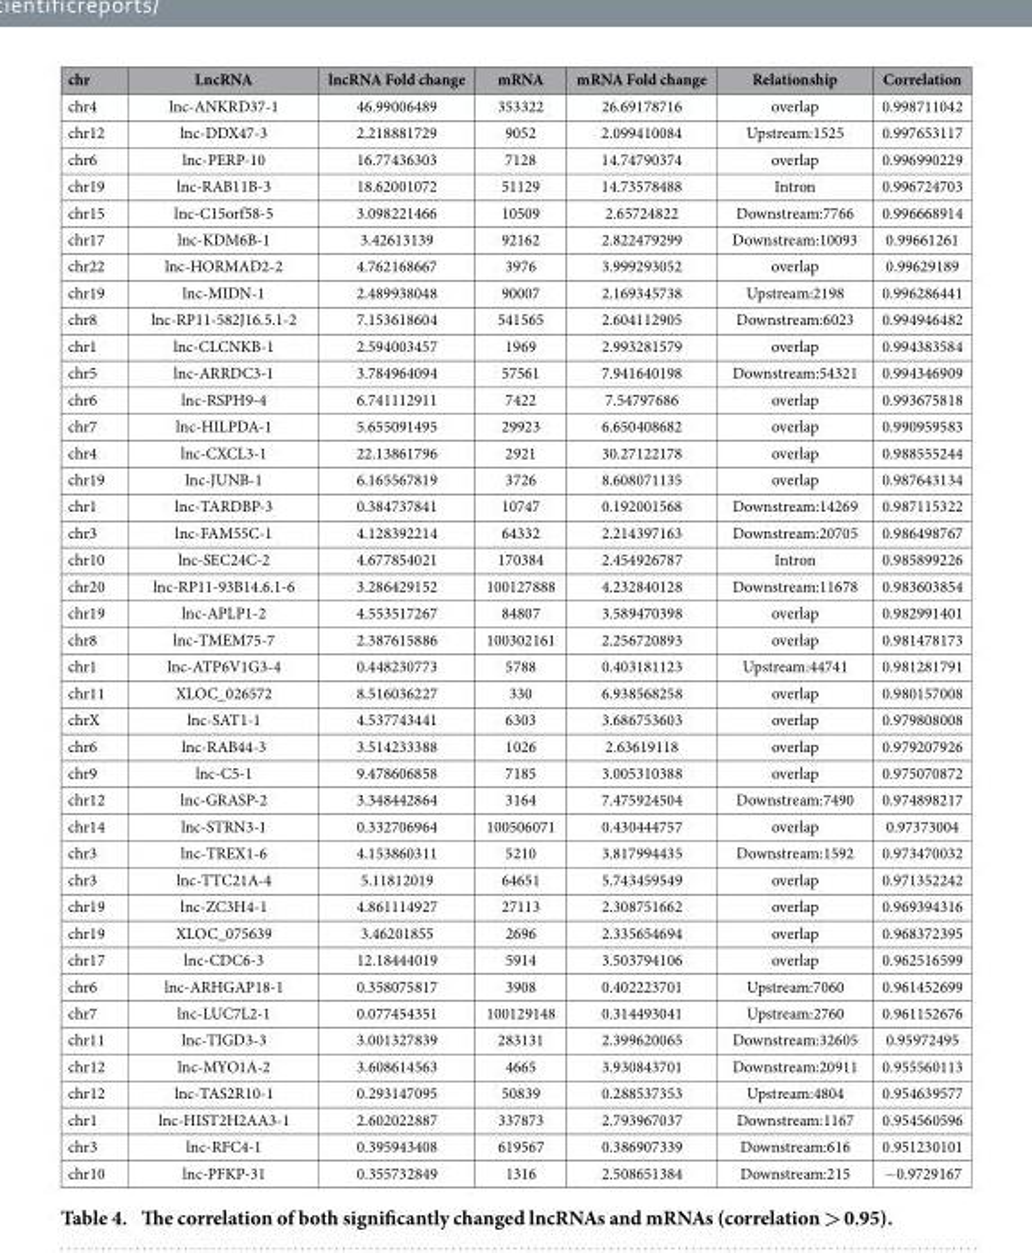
<table><thead><tr><td>chr</td><td>LncRNA</td><td>lncRNA Fold change</td><td>mRNA</td><td>mRNA Fold change</td><td>Relationship</td><td>Correlation</td></tr></thead><tbody><tr><td>chr4</td><td>lnc-ANKRD37-1</td><td>46.99006489</td><td>353322</td><td>26.69178716</td><td>overlap</td><td>0.998711042</td></tr><tr><td>chr12</td><td>lnc-DDX47-3</td><td>2.218881729</td><td>9052</td><td>2.099410084</td><td>Upstream:1525</td><td>0.997653117</td></tr><tr><td>chr6</td><td>lnc-PERP-10</td><td>16.77436303</td><td>7128</td><td>14.74790374</td><td>overlap</td><td>0.996990229</td></tr><tr><td>chr19</td><td>lnc-RAB11B-3</td><td>18.62001072</td><td>51129</td><td>14.73578488</td><td>Intron</td><td>0.996724703</td></tr><tr><td>chr15</td><td>lnc-C15orf58-5</td><td>3.098221466</td><td>10509</td><td>2.65724822</td><td>Downstream:7766</td><td>0.996668914</td></tr><tr><td>chr17</td><td>lnc-KDM6B-1</td><td>3.42613139</td><td>92162</td><td>2.822479299</td><td>Downstream:10093</td><td>0.99661261</td></tr><tr><td>chr22</td><td>lnc-HORMAD2-2</td><td>4.762168667</td><td>3976</td><td>3.999293052</td><td>overlap</td><td>0.99629189</td></tr><tr><td>chr19</td><td>lnc-MIDN-1</td><td>2.489938048</td><td>90007</td><td>2.169345738</td><td>Upstream:2198</td><td>0.996286441</td></tr><tr><td>chr8</td><td>lnc-RP11-582J16.5.1-2</td><td>7.153618604</td><td>541565</td><td>2.604112905</td><td>Downstream:6023</td><td>0.994946482</td></tr><tr><td>chr1</td><td>lnc-CLCNKB-1</td><td>2.594003457</td><td>1969</td><td>2.993281579</td><td>overlap</td><td>0.994383584</td></tr><tr><td>chr5</td><td>lnc-ARRDC3-1</td><td>3.784964094</td><td>57561</td><td>7.941640198</td><td>Downstream:54321</td><td>0.994346909</td></tr><tr><td>chr6</td><td>lnc-RSPH9-4</td><td>6.741112911</td><td>7422</td><td>7.54797686</td><td>overlap</td><td>0.993675818</td></tr><tr><td>chr7</td><td>lnc-HILPDA-1</td><td>5.655091495</td><td>29923</td><td>6.650408682</td><td>overlap</td><td>0.990959583</td></tr><tr><td>chr4</td><td>lnc-CXCL3-1</td><td>22.13861796</td><td>2921</td><td>30.27122178</td><td>overlap</td><td>0.988555244</td></tr><tr><td>chr19</td><td>lnc-JUNB-1</td><td>6.165567819</td><td>3726</td><td>8.608071135</td><td>overlap</td><td>0.987643134</td></tr><tr><td>chr1</td><td>lnc-TARDBP-3</td><td>0.384737841</td><td>10747</td><td>0.192001568</td><td>Downstream:14269</td><td>0.987115322</td></tr><tr><td>chr3</td><td>lnc-FAM55C-1</td><td>4.128392214</td><td>64332</td><td>2.214397163</td><td>Downstream:20705</td><td>0.986498767</td></tr><tr><td>chr10</td><td>lnc-SEC24C-2</td><td>4.677854021</td><td>170384</td><td>2.454926787</td><td>Intron</td><td>0.985899226</td></tr><tr><td>chr20</td><td>lnc-RP11-93B14.6.1-6</td><td>3.286429152</td><td>100127888</td><td>4.232840128</td><td>Downstream:11678</td><td>0.983603854</td></tr><tr><td>chr19</td><td>lnc-APLP1-2</td><td>4.553517267</td><td>84807</td><td>3.589470398</td><td>overlap</td><td>0.982991401</td></tr><tr><td>chr8</td><td>lnc-TMEM75-7</td><td>2.387615886</td><td>100302161</td><td>2.256720893</td><td>overlap</td><td>0.981478173</td></tr><tr><td>chr1</td><td>lnc-ATP6V1G3-4</td><td>0.448230773</td><td>5788</td><td>0.403181123</td><td>Upstream:44741</td><td>0.981281791</td></tr><tr><td>chr11</td><td>XLOC_026572</td><td>8.516036227</td><td>330</td><td>6.938568258</td><td>overlap</td><td>0.980157008</td></tr><tr><td>chrX</td><td>lnc-SAT1-1</td><td>4.537743441</td><td>6303</td><td>3.686753603</td><td>overlap</td><td>0.979808008</td></tr><tr><td>chr6</td><td>lnc-RAB44-3</td><td>3.514233388</td><td>1026</td><td>2.63619118</td><td>overlap</td><td>0.979207926</td></tr><tr><td>chr9</td><td>lnc-C5-1</td><td>9.478606858</td><td>7185</td><td>3.005310388</td><td>overlap</td><td>0.975070872</td></tr><tr><td>chr12</td><td>lnc-GRASP-2</td><td>3.348442864</td><td>3164</td><td>7.475924504</td><td>Downstream:7490</td><td>0.974898217</td></tr><tr><td>chr14</td><td>lnc-STRN3-1</td><td>0.332706964</td><td>100506071</td><td>0.430444757</td><td>overlap</td><td>0.97373004</td></tr><tr><td>chr3</td><td>lnc-TREX1-6</td><td>4.153860311</td><td>5210</td><td>3.817994435</td><td>Downstream:1592</td><td>0.973470032</td></tr><tr><td>chr3</td><td>lnc-TTC21A-4</td><td>5.11812019</td><td>64651</td><td>5.743459549</td><td>overlap</td><td>0.971352242</td></tr><tr><td>chr19</td><td>lnc-ZC3H4-1</td><td>4.861114927</td><td>27113</td><td>2.308751662</td><td>overlap</td><td>0.969394316</td></tr><tr><td>chr19</td><td>XLOC_075639</td><td>3.46201855</td><td>2696</td><td>2.335654694</td><td>overlap</td><td>0.968372395</td></tr><tr><td>chr17</td><td>lnc-CDC6-3</td><td>12.18444019</td><td>5914</td><td>3.503794106</td><td>overlap</td><td>0.962516599</td></tr><tr><td>chr6</td><td>lnc-ARHGAP18-1</td><td>0.358075817</td><td>3908</td><td>0.402223701</td><td>Upstream:7060</td><td>0.961452699</td></tr><tr><td>chr7</td><td>lnc-LUC7L2-1</td><td>0.077454351</td><td>100129148</td><td>0.314493041</td><td>Upstream:2760</td><td>0.961152676</td></tr><tr><td>chr11</td><td>lnc-TIGD3-3</td><td>3.001327839</td><td>283131</td><td>2.399620065</td><td>Downstream:32605</td><td>0.95972495</td></tr><tr><td>chr12</td><td>lnc-MYO1A-2</td><td>3.608614563</td><td>4665</td><td>3.930843701</td><td>Downstream:20911</td><td>0.955560113</td></tr><tr><td>chr12</td><td>lnc-TAS2R10-1</td><td>0.293147095</td><td>50839</td><td>0.288537353</td><td>Upstream:4804</td><td>0.954639577</td></tr><tr><td>chr1</td><td>lnc-HIST2H2AA3-1</td><td>2.602022887</td><td>337873</td><td>2.793967037</td><td>Downstream:1167</td><td>0.954560596</td></tr><tr><td>chr3</td><td>lnc-RFC4-1</td><td>0.395943408</td><td>619567</td><td>0.386907339</td><td>Downstream:616</td><td>0.951230101</td></tr><tr><td>chr10</td><td>lnc-PFKP-31</td><td>0.355732849</td><td>1316</td><td>2.508651384</td><td>Downstream:215</td><td>− 0.9729167</td></tr></tbody></table>